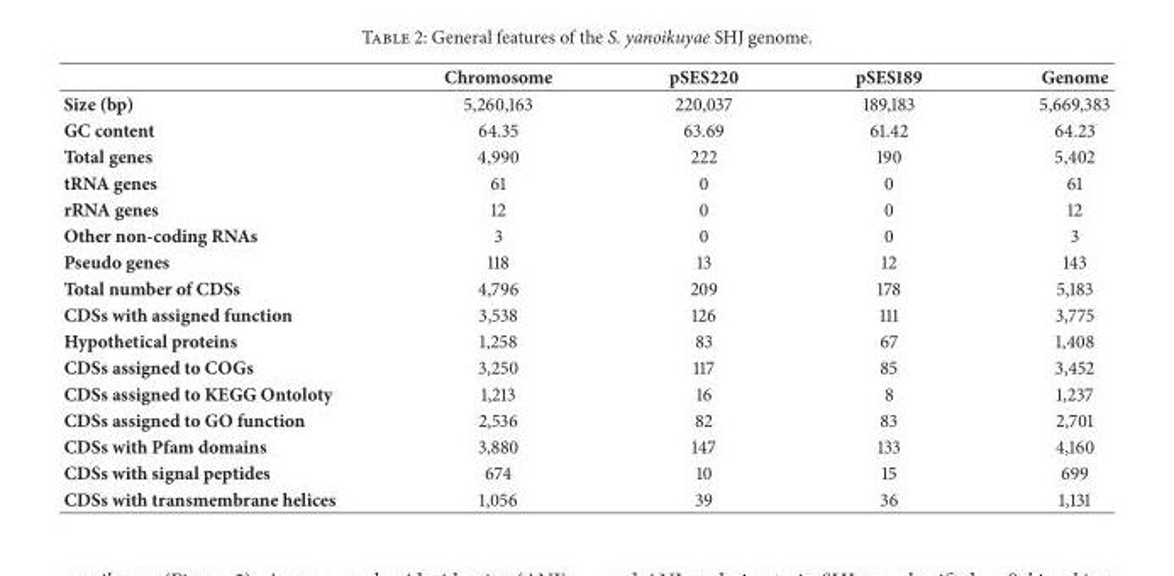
<table><thead><tr><td></td><td>Chromosome</td><td>pSES220</td><td>pSES189</td><td>Genome</td></tr></thead><tbody><tr><td>Size (bp)</td><td>5,260,163</td><td>220,037</td><td>189,183</td><td>5,669,383</td></tr><tr><td>GC content</td><td>64.35</td><td>63.69</td><td>61.42</td><td>64.23</td></tr><tr><td>Total genes</td><td>4,990</td><td>222</td><td>190</td><td>5,402</td></tr><tr><td>tRNA genes</td><td>61</td><td>0</td><td>0</td><td>61</td></tr><tr><td>rRNA genes</td><td>12</td><td>0</td><td>0</td><td>12</td></tr><tr><td>Other non-coding RNAs</td><td>3</td><td>0</td><td>0</td><td>3</td></tr><tr><td>Pseudo genes</td><td>118</td><td>13</td><td>12</td><td>143</td></tr><tr><td>Total number of CDSs</td><td>4,796</td><td>209</td><td>178</td><td>5,183</td></tr><tr><td>CDSs with assigned function</td><td>3,538</td><td>126</td><td>111</td><td>3,775</td></tr><tr><td>Hypothetical proteins</td><td>1,258</td><td>83</td><td>67</td><td>1,408</td></tr><tr><td>CDSs assigned to COGs</td><td>3,250</td><td>117</td><td>85</td><td>3,452</td></tr><tr><td>CDSs assigned to KEGG Ontoloty</td><td>1,213</td><td>16</td><td>8</td><td>1,237</td></tr><tr><td>CDSs assigned to GO function</td><td>2,536</td><td>82</td><td>83</td><td>2,701</td></tr><tr><td>CDSs with Pfam domains</td><td>3,880</td><td>147</td><td>133</td><td>4,160</td></tr><tr><td>CDSs with signal peptides</td><td>674</td><td>10</td><td>15</td><td>699</td></tr><tr><td>CDSs with transmembrane helices</td><td>1,056</td><td>39</td><td>36</td><td>1,131</td></tr></tbody></table>